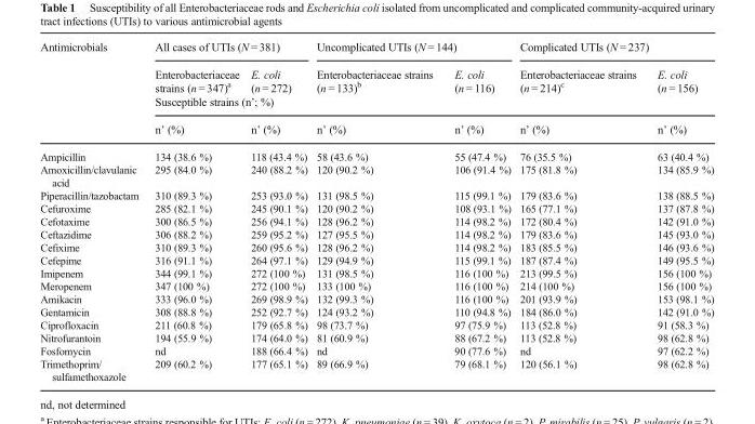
<table><thead><tr><td rowspan="4">Antimicrobials</td><td colspan="2">All cases of UTIs (N = 381)</td><td colspan="2">Uncomplicated UTIs (N = 144)</td><td colspan="2">Complicated UTIs (N = 237)</td></tr><tr><td>Enterobacteriaceae strains (n = 347)<sup>a</sup></td><td>E. coli (n = 272)</td><td>Enterobacteriaceae strains (n = 133)<sup>b</sup></td><td>E. coli (n = 116)</td><td>Enterobacteriaceae strains (n = 214)<sup>c</sup></td><td>E. coli (n = 156)</td></tr><tr><td colspan="6">Susceptible strains (n’; %)</td></tr><tr><td>n’ (%)</td><td>n’ (%)</td><td>n’ (%)</td><td>n’ (%)</td><td>n’ (%)</td><td>n’ (%)</td></tr></thead><tbody><tr><td>Ampicillin</td><td>134 (38.6 %)</td><td>118 (43.4 %)</td><td>58 (43.6 %)</td><td>55 (47.4 %)</td><td>76 (35.5 %)</td><td>63 (40.4 %)</td></tr><tr><td>Amoxicillin/clavulanic acid</td><td>295 (84.0 %)</td><td>240 (88.2 %)</td><td>120 (90.2 %)</td><td>106 (91.4 %)</td><td>175 (81.8 %)</td><td>134 (85.9 %)</td></tr><tr><td>Piperacillin/tazobactam</td><td>310 (89.3 %)</td><td>253 (93.0 %)</td><td>131 (98.5 %)</td><td>115 (99.1 %)</td><td>179 (83.6 %)</td><td>138 (88.5 %)</td></tr><tr><td>Cefuroxime</td><td>285 (82.1 %)</td><td>245 (90.1 %)</td><td>120 (90.2 %)</td><td>108 (93.1 %)</td><td>165 (77.1 %)</td><td>137 (87.8 %)</td></tr><tr><td>Cefotaxime</td><td>300 (86.5 %)</td><td>256 (94.1 %)</td><td>128 (96.2 %)</td><td>114 (98.2 %)</td><td>172 (80.4 %)</td><td>142 (91.0 %)</td></tr><tr><td>Ceftazidime</td><td>306 (88.2 %)</td><td>259 (95.2 %)</td><td>127 (95.5 %)</td><td>114 (98.2 %)</td><td>179 (83.6 %)</td><td>145 (93.0 %)</td></tr><tr><td>Cefixime</td><td>310 (89.3 %)</td><td>260 (95.6 %)</td><td>128 (96.2 %)</td><td>114 (98.2 %)</td><td>183 (85.5 %)</td><td>146 (93.6 %)</td></tr><tr><td>Cefepime</td><td>316 (91.1 %)</td><td>264 (97.1 %)</td><td>129 (94.9 %)</td><td>115 (99.1 %)</td><td>187 (87.4 %)</td><td>149 (95.5 %)</td></tr><tr><td>Imipenem</td><td>344 (99.1 %)</td><td>272 (100 %)</td><td>131 (98.5 %)</td><td>116 (100 %)</td><td>213 (99.5 %)</td><td>156 (100 %)</td></tr><tr><td>Meropenem</td><td>347 (100 %)</td><td>272 (100 %)</td><td>133 (100 %)</td><td>116 (100 %)</td><td>214 (100 %)</td><td>156 (100 %)</td></tr><tr><td>Amikacin</td><td>333 (96.0 %)</td><td>269 (98.9 %)</td><td>132 (99.3 %)</td><td>116 (100 %)</td><td>201 (93.9 %)</td><td>153 (98.1 %)</td></tr><tr><td>Gentamicin</td><td>308 (88.8 %)</td><td>252 (92.7 %)</td><td>124 (93.2 %)</td><td>110 (94.8 %)</td><td>184 (86.0 %)</td><td>142 (91.0 %)</td></tr><tr><td>Ciprofloxacin</td><td>211 (60.8 %)</td><td>179 (65.8 %)</td><td>98 (73.7 %)</td><td>97 (75.9 %)</td><td>113 (52.8 %)</td><td>91 (58.3 %)</td></tr><tr><td>Nitrofurantoin</td><td>194 (55.9 %)</td><td>174 (64.0 %)</td><td>81 (60.9 %)</td><td>88 (67.2 %)</td><td>113 (52.8 %)</td><td>98 (62.8 %)</td></tr><tr><td>Fosfomycin</td><td>nd</td><td>188 (66.4 %)</td><td>nd</td><td>90 (77.6 %)</td><td>nd</td><td>97 (62.2 %)</td></tr><tr><td>Trimethoprim/ sulfamethoxazole</td><td>209 (60.2 %)</td><td>177 (65.1 %)</td><td>89 (66.9 %)</td><td>79 (68.1 %)</td><td>120 (56.1 %)</td><td>98 (62.8 %)</td></tr></tbody></table>